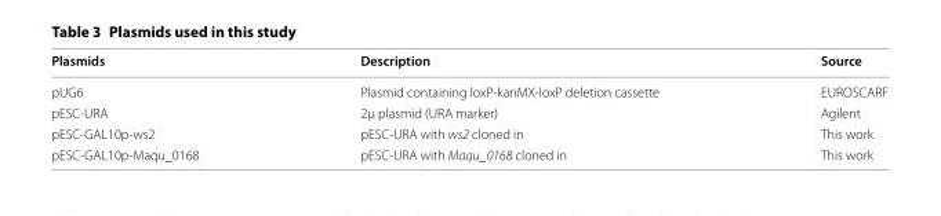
<table><thead><tr><td>Plasmids</td><td>Description</td><td>Source</td></tr></thead><tbody><tr><td>pUG6</td><td>Plasmid containing loxP‑kanMX‑loxP deletion cassette</td><td>EUROSCARF</td></tr><tr><td>pESC‑URA</td><td>2μ plasmid (URA marker)</td><td>Agilent</td></tr><tr><td>pESC‑GAL10p‑ws2</td><td>pESC‑URA with ws2 cloned in</td><td>This work</td></tr><tr><td>pESC‑GAL10p‑Maqu_0168</td><td>pESC‑URA with Maqu_0168 cloned in</td><td>This work</td></tr></tbody></table>